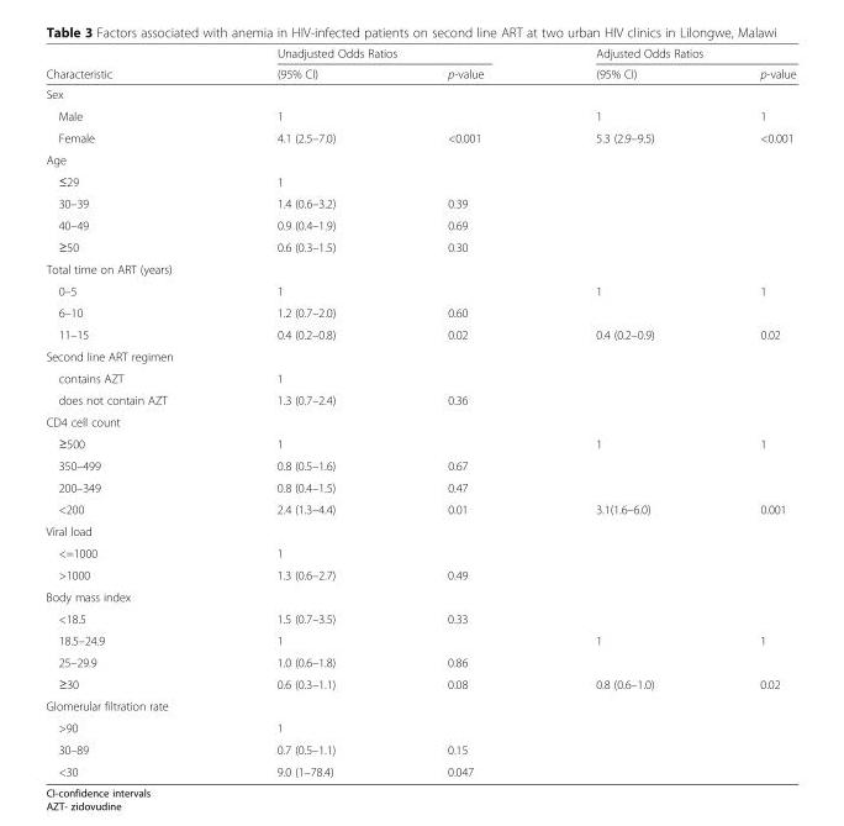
<table><thead><tr><td rowspan="2">Characteristic</td><td colspan="2">Unadjusted Odds Ratios</td><td colspan="2">Adjusted Odds Ratios</td></tr><tr><td>(95% CI)</td><td>p-value</td><td>(95% CI)</td><td>p-value</td></tr></thead><tbody><tr><td colspan="5">Sex</td></tr><tr><td>Male</td><td>1</td><td></td><td>1</td><td>1</td></tr><tr><td>Female</td><td>4.1 (2.5–7.0)</td><td>&lt;0.001</td><td>5.3 (2.9–9.5)</td><td>&lt;0.001</td></tr><tr><td colspan="5">Age</td></tr><tr><td>≤29</td><td>1</td><td></td><td></td><td></td></tr><tr><td>30–39</td><td>1.4 (0.6–3.2)</td><td>0.39</td><td></td><td></td></tr><tr><td>40–49</td><td>0.9 (0.4–1.9)</td><td>0.69</td><td></td><td></td></tr><tr><td>≥50</td><td>0.6 (0.3–1.5)</td><td>0.30</td><td></td><td></td></tr><tr><td colspan="5">Total time on ART (years)</td></tr><tr><td>0–5</td><td>1</td><td></td><td>1</td><td>1</td></tr><tr><td>6–10</td><td>1.2 (0.7–2.0)</td><td>0.60</td><td></td><td></td></tr><tr><td>11–15</td><td>0.4 (0.2–0.8)</td><td>0.02</td><td>0.4 (0.2–0.9)</td><td>0.02</td></tr><tr><td colspan="5">Second line ART regimen</td></tr><tr><td>contains AZT</td><td>1</td><td></td><td></td><td></td></tr><tr><td>does not contain AZT</td><td>1.3 (0.7–2.4)</td><td>0.36</td><td></td><td></td></tr><tr><td colspan="5">CD4 cell count</td></tr><tr><td>≥500</td><td>1</td><td></td><td>1</td><td>1</td></tr><tr><td>350–499</td><td>0.8 (0.5–1.6)</td><td>0.67</td><td></td><td></td></tr><tr><td>200–349</td><td>0.8 (0.4–1.5)</td><td>0.47</td><td></td><td></td></tr><tr><td>&lt;200</td><td>2.4 (1.3–4.4)</td><td>0.01</td><td>3.1(1.6–6.0)</td><td>0.001</td></tr><tr><td colspan="5">Viral load</td></tr><tr><td>&lt;=1000</td><td>1</td><td></td><td></td><td></td></tr><tr><td>&gt;1000</td><td>1.3 (0.6–2.7)</td><td>0.49</td><td></td><td></td></tr><tr><td colspan="5">Body mass index</td></tr><tr><td>&lt;18.5</td><td>1.5 (0.7–3.5)</td><td>0.33</td><td></td><td></td></tr><tr><td>18.5–24.9</td><td>1</td><td></td><td>1</td><td>1</td></tr><tr><td>25–29.9</td><td>1.0 (0.6–1.8)</td><td>0.86</td><td></td><td></td></tr><tr><td>≥30</td><td>0.6 (0.3–1.1)</td><td>0.08</td><td>0.8 (0.6–1.0)</td><td>0.02</td></tr><tr><td colspan="5">Glomerular filtration rate</td></tr><tr><td>&gt;90</td><td>1</td><td></td><td></td><td></td></tr><tr><td>30–89</td><td>0.7 (0.5–1.1)</td><td>0.15</td><td></td><td></td></tr><tr><td>&lt;30</td><td>9.0 (1–78.4)</td><td>0.047</td><td></td><td></td></tr></tbody></table>